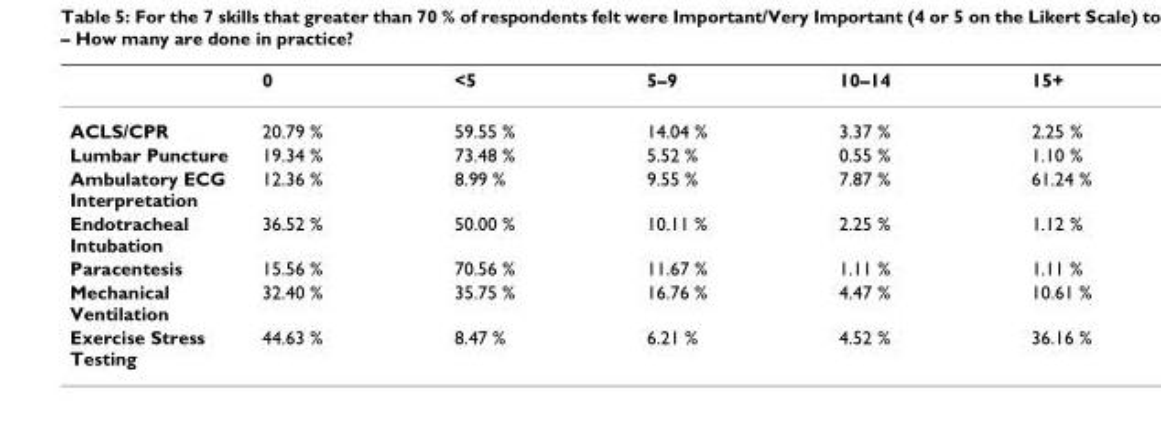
<table><thead><tr><td></td><td>0</td><td>&lt;5</td><td>5–9</td><td>10–14</td><td>15+</td></tr></thead><tbody><tr><td>ACLS/CPR</td><td>20.79 %</td><td>59.55 %</td><td>14.04 %</td><td>3.37 %</td><td>2.25 %</td></tr><tr><td>Lumbar Puncture</td><td>19.34 %</td><td>73.48 %</td><td>5.52 %</td><td>0.55 %</td><td>1.10 %</td></tr><tr><td>Ambulatory ECG Interpretation</td><td>12.36 %</td><td>8.99 %</td><td>9.55 %</td><td>7.87 %</td><td>61.24 %</td></tr><tr><td>Endotracheal Intubation</td><td>36.52 %</td><td>50.00 %</td><td>10.11 %</td><td>2.25 %</td><td>1.12 %</td></tr><tr><td>Paracentesis</td><td>15.56 %</td><td>70.56 %</td><td>11.67 %</td><td>1.11 %</td><td>1.11 %</td></tr><tr><td>Mechanical Ventilation</td><td>32.40 %</td><td>35.75 %</td><td>16.76 %</td><td>4.47 %</td><td>10.61 %</td></tr><tr><td>Exercise Stress Testing</td><td>44.63 %</td><td>8.47 %</td><td>6.21 %</td><td>4.52 %</td><td>36.16 %</td></tr></tbody></table>